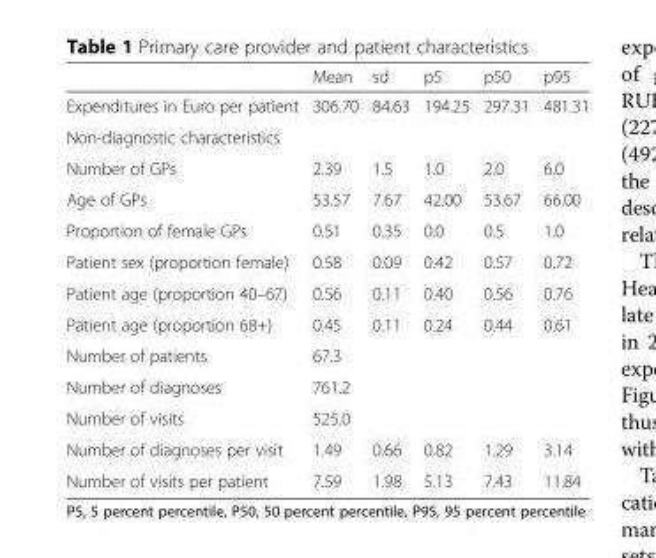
<table><thead><tr><td></td><td>Mean</td><td>sd</td><td>p5</td><td>p50</td><td>p95</td></tr></thead><tbody><tr><td>Expenditures in Euro per patient</td><td>306.70</td><td>84.63</td><td>194.25</td><td>297.31</td><td>481.31</td></tr><tr><td colspan="6">Non-diagnostic characteristics</td></tr><tr><td>Number of GPs</td><td>2.39</td><td>1.5</td><td>1.0</td><td>2.0</td><td>6.0</td></tr><tr><td>Age of GPs</td><td>53.57</td><td>7.67</td><td>42.00</td><td>53.67</td><td>66.00</td></tr><tr><td>Proportion of female GPs</td><td>0.51</td><td>0.35</td><td>0.0</td><td>0.5</td><td>1.0</td></tr><tr><td>Patient sex (proportion female)</td><td>0.58</td><td>0.09</td><td>0.42</td><td>0.57</td><td>0.72</td></tr><tr><td>Patient age (proportion 40–67)</td><td>0.56</td><td>0.11</td><td>0.40</td><td>0.56</td><td>0.76</td></tr><tr><td>Patient age (proportion 68+)</td><td>0.45</td><td>0.11</td><td>0.24</td><td>0.44</td><td>0.61</td></tr><tr><td>Number of patients</td><td>67.3</td><td></td><td></td><td></td><td></td></tr><tr><td>Number of diagnoses</td><td>761.2</td><td></td><td></td><td></td><td></td></tr><tr><td>Number of visits</td><td>525.0</td><td></td><td></td><td></td><td></td></tr><tr><td>Number of diagnoses per visit</td><td>1.49</td><td>0.66</td><td>0.82</td><td>1.29</td><td>3.14</td></tr><tr><td>Number of visits per patient</td><td>7.59</td><td>1.98</td><td>5.13</td><td>7.43</td><td>11.84</td></tr></tbody></table>